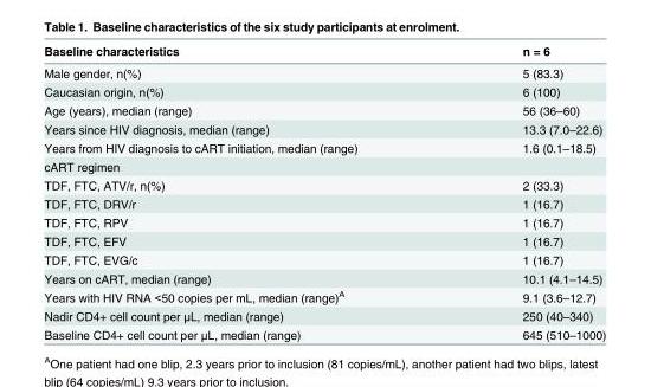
<table><thead><tr><td>Baseline characteristics</td><td>n = 6</td></tr></thead><tbody><tr><td>Male gender, n(%)</td><td>5 (83.3)</td></tr><tr><td>Caucasian origin, n(%)</td><td>6 (100)</td></tr><tr><td>Age (years), median (range)</td><td>56 (36–60)</td></tr><tr><td>Years since HIV diagnosis, median (range)</td><td>13.3 (7.0–22.6)</td></tr><tr><td>Years from HIV diagnosis to cART initiation, median (range)</td><td>1.6 (0.1–18.5)</td></tr><tr><td colspan="2">cART regimen</td></tr><tr><td>TDF, FTC, ATV/r, n(%)</td><td>2 (33.3)</td></tr><tr><td>TDF, FTC, DRV/r</td><td>1 (16.7)</td></tr><tr><td>TDF, FTC, RPV</td><td>1 (16.7)</td></tr><tr><td>TDF, FTC, EFV</td><td>1 (16.7)</td></tr><tr><td>TDF, FTC, EVG/c</td><td>1 (16.7)</td></tr><tr><td>Years on cART, median (range)</td><td>10.1 (4.1–14.5)</td></tr><tr><td>Years with HIV RNA &lt;50 copies per mL, median (range)<sup>A</sup></td><td>9.1 (3.6–12.7)</td></tr><tr><td>Nadir CD4+ cell count per μL, median (range)</td><td>250 (40–340)</td></tr><tr><td>Baseline CD4+ cell count per μL, median (range)</td><td>645 (510–1000)</td></tr></tbody></table>